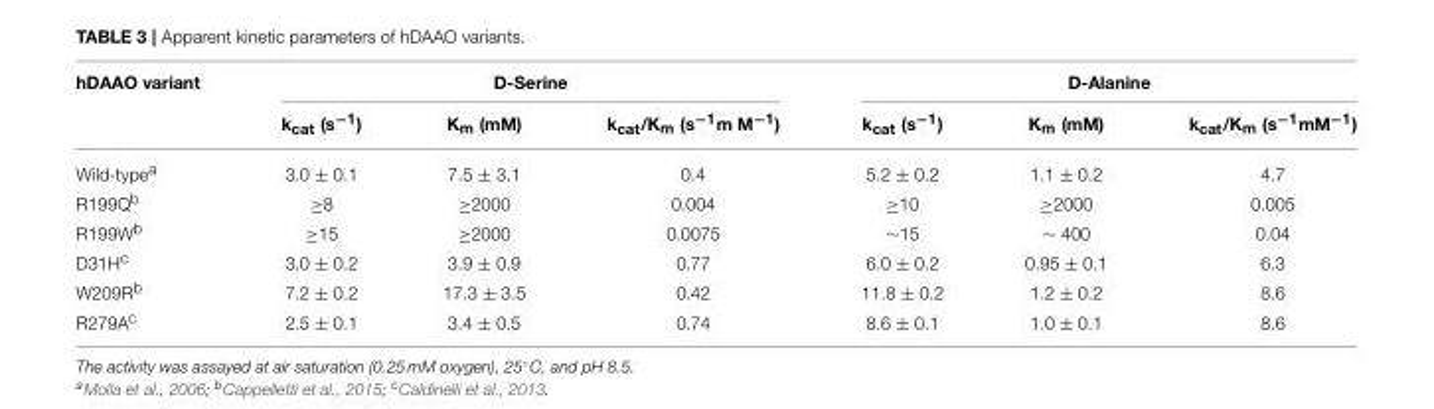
<table><thead><tr><td rowspan="2">hDAAO variant</td><td colspan="3">D-Serine</td><td colspan="3">D-Alanine</td></tr><tr><td>k<sub>cat</sub> (s<sup>−1</sup>)</td><td>K<sub>m</sub> (mM)</td><td>k<sub>cat</sub>/K<sub>m</sub> (s<sup>−1</sup>m M<sup>−1</sup>)</td><td>k<sub>cat</sub> (s<sup>−1</sup>)</td><td>K<sub>m</sub> (mM)</td><td>k<sub>cat</sub>/K<sub>m</sub> (s<sup>−1</sup>mM<sup>−1</sup>)</td></tr></thead><tbody><tr><td>Wild-type<sup>a</sup></td><td>3.0 ± 0.1</td><td>7.5 ± 3.1</td><td>0.4</td><td>5.2 ± 0.2</td><td>1.1 ± 0.2</td><td>4.7</td></tr><tr><td>R199Q<sup>b</sup></td><td>≥8</td><td>≥2000</td><td>0.004</td><td>≥10</td><td>≥2000</td><td>0.005</td></tr><tr><td>R199W<sup>b</sup></td><td>≥15</td><td>≥2000</td><td>0.0075</td><td>∼15</td><td>∼ 400</td><td>0.04</td></tr><tr><td>D31H<sup>c</sup></td><td>3.0 ± 0.2</td><td>3.9 ± 0.9</td><td>0.77</td><td>6.0 ± 0.2</td><td>0.95 ± 0.1</td><td>6.3</td></tr><tr><td>W209R<sup>b</sup></td><td>7.2 ± 0.2</td><td>17.3 ± 3.5</td><td>0.42</td><td>11.8 ± 0.2</td><td>1.2 ± 0.2</td><td>8.6</td></tr><tr><td>R279A<sup>c</sup></td><td>2.5 ± 0.1</td><td>3.4 ± 0.5</td><td>0.74</td><td>8.6 ± 0.1</td><td>1.0 ± 0.1</td><td>8.6</td></tr></tbody></table>